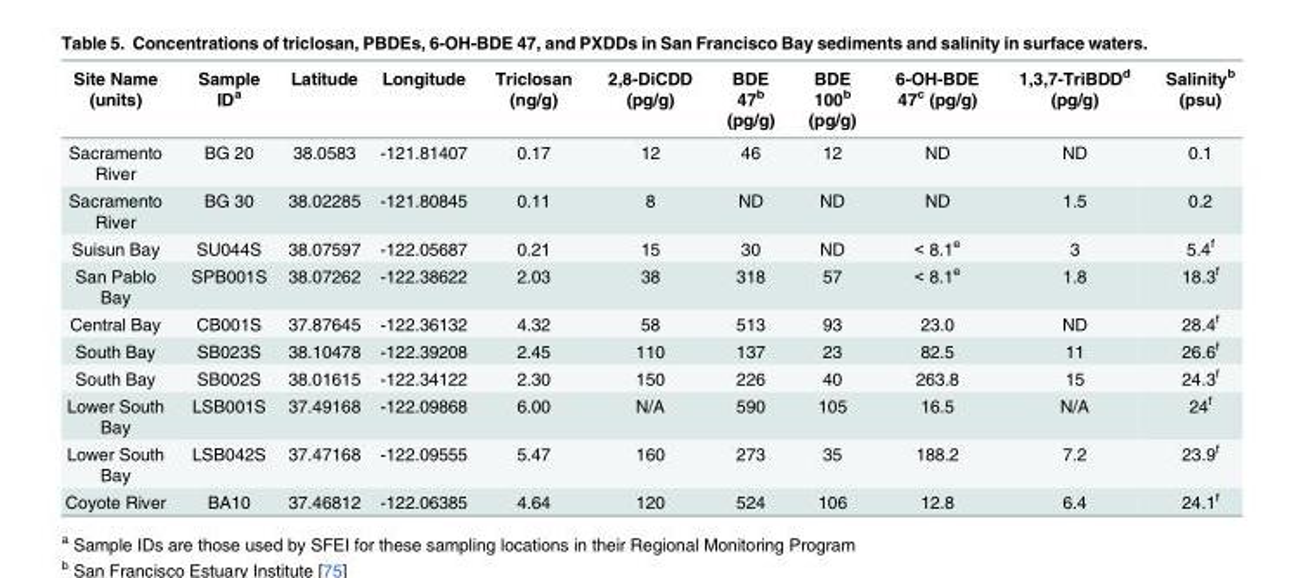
<table><thead><tr><td>Site Name (units)</td><td>Sample ID<sup>a</sup></td><td>Latitude</td><td>Longitude</td><td>Triclosan (ng/g)</td><td>2,8-DiCDD (pg/g)</td><td>BDE 47<sup>b</sup> (pg/g)</td><td>BDE 100<sup>b</sup> (pg/g)</td><td>6-OH-BDE 47<sup>c</sup> (pg/g)</td><td>1,3,7-TriBDD<sup>d</sup> (pg/g)</td><td>Salinity<sup>b</sup> (psu)</td></tr></thead><tbody><tr><td>Sacramento River</td><td>BG 20</td><td>38.0583</td><td>-121.81407</td><td>0.17</td><td>12</td><td>46</td><td>12</td><td>ND</td><td>ND</td><td>0.1</td></tr><tr><td>Sacramento River</td><td>BG 30</td><td>38.02285</td><td>-121.80845</td><td>0.11</td><td>8</td><td>ND</td><td>ND</td><td>ND</td><td>1.5</td><td>0.2</td></tr><tr><td>Suisun Bay</td><td>SU044S</td><td>38.07597</td><td>-122.05687</td><td>0.21</td><td>15</td><td>30</td><td>ND</td><td>&lt; 8.1<sup>e</sup></td><td>3</td><td>5.4<sup>f</sup></td></tr><tr><td>San Pablo Bay</td><td>SPB001S</td><td>38.07262</td><td>-122.38622</td><td>2.03</td><td>38</td><td>318</td><td>57</td><td>&lt; 8.1<sup>e</sup></td><td>1.8</td><td>18.3<sup>f</sup></td></tr><tr><td>Central Bay</td><td>CB001S</td><td>37.87645</td><td>-122.36132</td><td>4.32</td><td>58</td><td>513</td><td>93</td><td>23.0</td><td>ND</td><td>28.4<sup>f</sup></td></tr><tr><td>South Bay</td><td>SB023S</td><td>38.10478</td><td>-122.39208</td><td>2.45</td><td>110</td><td>137</td><td>23</td><td>82.5</td><td>11</td><td>26.6<sup>f</sup></td></tr><tr><td>South Bay</td><td>SB002S</td><td>38.01615</td><td>-122.34122</td><td>2.30</td><td>150</td><td>226</td><td>40</td><td>263.8</td><td>15</td><td>24.3<sup>f</sup></td></tr><tr><td>Lower South Bay</td><td>LSB001S</td><td>37.49168</td><td>-122.09868</td><td>6.00</td><td>N/A</td><td>590</td><td>105</td><td>16.5</td><td>N/A</td><td>24<sup>f</sup></td></tr><tr><td>Lower South Bay</td><td>LSB042S</td><td>37.47168</td><td>-122.09555</td><td>5.47</td><td>160</td><td>273</td><td>35</td><td>188.2</td><td>7.2</td><td>23.9<sup>f</sup></td></tr><tr><td>Coyote River</td><td>BA10</td><td>37.46812</td><td>-122.06385</td><td>4.64</td><td>120</td><td>524</td><td>106</td><td>12.8</td><td>6.4</td><td>24.1<sup>f</sup></td></tr></tbody></table>